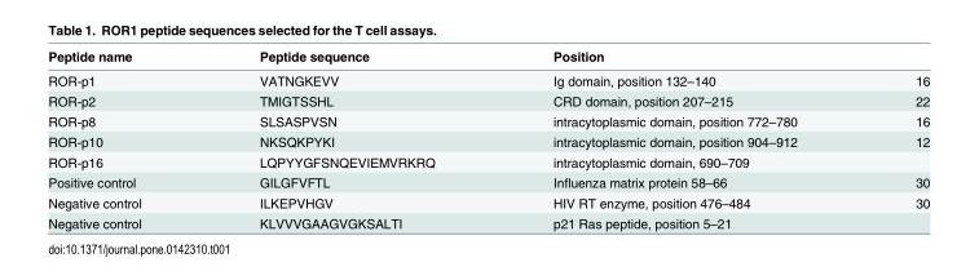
<table><thead><tr><td>Peptide name</td><td>Peptide sequence</td><td>Position</td><td></td></tr></thead><tbody><tr><td>ROR-p1</td><td>VATNGKEVV</td><td>Ig domain, position 132–140</td><td>16</td></tr><tr><td>ROR-p2</td><td>TMIGTSSHL</td><td>CRD domain, position 207–215</td><td>22</td></tr><tr><td>ROR-p8</td><td>SLSASPVSN</td><td>intracytoplasmic domain, position 772–780</td><td>16</td></tr><tr><td>ROR-p10</td><td>NKSQKPYKI</td><td>intracytoplasmic domain, position 904–912</td><td>12</td></tr><tr><td>ROR-p16</td><td>LQPYYGFSNQEVIEMVRKRQ</td><td>intracytoplasmic domain, 690–709</td><td></td></tr><tr><td>Positive control</td><td>GILGFVFTL</td><td>Influenza matrix protein 58–66</td><td>30</td></tr><tr><td>Negative control</td><td>ILKEPVHGV</td><td>HIV RT enzyme, position 476–484</td><td>30</td></tr><tr><td>Negative control</td><td>KLVVVGAAGVGKSALTI</td><td>p21 Ras peptide, position 5–21</td><td></td></tr></tbody></table>